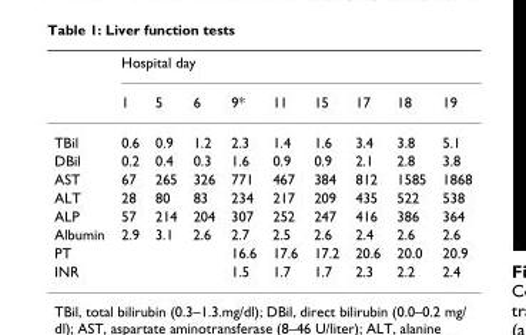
<table><thead><tr><td rowspan="2"></td><td colspan="9">Hospital day</td></tr><tr><td>1</td><td>5</td><td>6</td><td>9*</td><td>11</td><td>15</td><td>17</td><td>18</td><td>19</td></tr></thead><tbody><tr><td>TBil</td><td>0.6</td><td>0.9</td><td>1.2</td><td>2.3</td><td>1.4</td><td>1.6</td><td>3.4</td><td>3.8</td><td>5.1</td></tr><tr><td>DBil</td><td>0.2</td><td>0.4</td><td>0.3</td><td>1.6</td><td>0.9</td><td>0.9</td><td>2.1</td><td>2.8</td><td>3.8</td></tr><tr><td>AST</td><td>67</td><td>265</td><td>326</td><td>771</td><td>467</td><td>384</td><td>812</td><td>1585</td><td>1868</td></tr><tr><td>ALT</td><td>28</td><td>80</td><td>83</td><td>234</td><td>217</td><td>209</td><td>435</td><td>522</td><td>538</td></tr><tr><td>ALP</td><td>57</td><td>214</td><td>204</td><td>307</td><td>252</td><td>247</td><td>416</td><td>386</td><td>364</td></tr><tr><td>Albumin</td><td>2.9</td><td>3.1</td><td>2.6</td><td>2.7</td><td>2.5</td><td>2.6</td><td>2.4</td><td>2.6</td><td>2.6</td></tr><tr><td>PT</td><td></td><td></td><td></td><td>16.6</td><td>17.6</td><td>17.2</td><td>20.6</td><td>20.0</td><td>20.9</td></tr><tr><td>INR</td><td></td><td></td><td></td><td>1.5</td><td>1.7</td><td>1.7</td><td>2.3</td><td>2.2</td><td>2.4</td></tr></tbody></table>